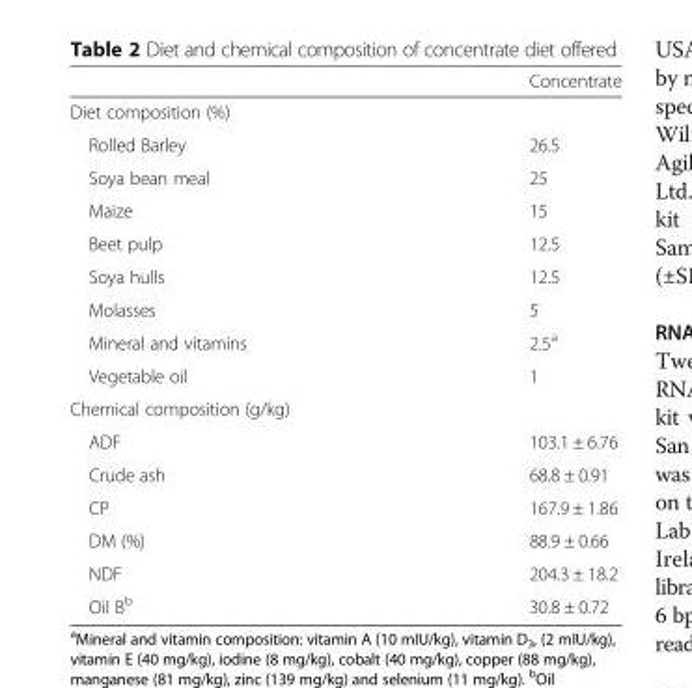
<table><thead><tr><td></td><td>Concentrate</td></tr></thead><tbody><tr><td colspan="2">Diet composition (%)</td></tr><tr><td>Rolled Barley</td><td>26.5</td></tr><tr><td>Soya bean meal</td><td>25</td></tr><tr><td>Maize</td><td>15</td></tr><tr><td>Beet pulp</td><td>12.5</td></tr><tr><td>Soya hulls</td><td>12.5</td></tr><tr><td>Molasses</td><td>5</td></tr><tr><td>Mineral and vitamins</td><td>2.5<sup>a</sup></td></tr><tr><td>Vegetable oil</td><td>1</td></tr><tr><td colspan="2">Chemical composition (g/kg)</td></tr><tr><td>ADF</td><td>103.1 ± 6.76</td></tr><tr><td>Crude ash</td><td>68.8 ± 0.91</td></tr><tr><td>CP</td><td>167.9 ± 1.86</td></tr><tr><td>DM (%)</td><td>88.9 ± 0.66</td></tr><tr><td>NDF</td><td>204.3 ± 18.2</td></tr><tr><td>Oil B<sup>b</sup></td><td>30.8 ± 0.72</td></tr></tbody></table>